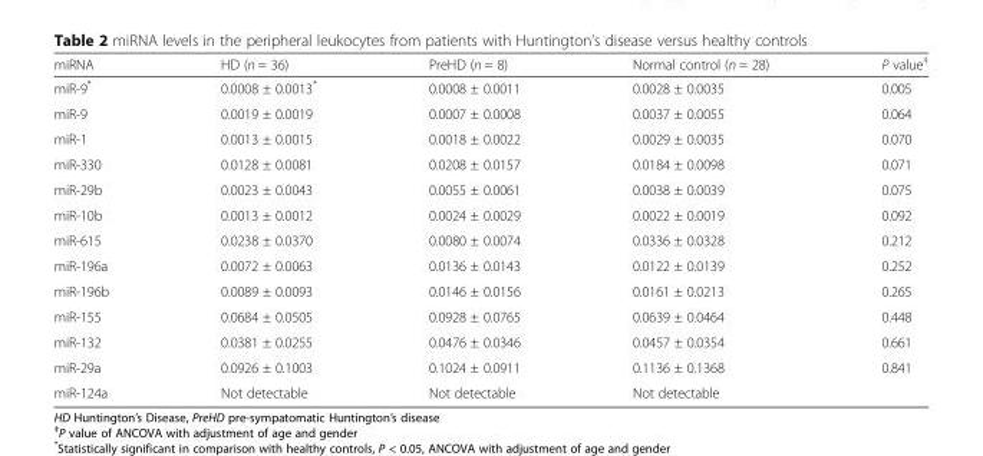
<table><thead><tr><td>miRNA</td><td>HD (n = 36)</td><td>PreHD (n = 8)</td><td>Normal control (n = 28)</td><td>P value<sup>‡</sup></td></tr></thead><tbody><tr><td>miR-9*</td><td>0.0008 ± 0.0013*</td><td>0.0008 ± 0.0011</td><td>0.0028 ± 0.0035</td><td>0.005</td></tr><tr><td>miR-9</td><td>0.0019 ± 0.0019</td><td>0.0007 ± 0.0008</td><td>0.0037 ± 0.0055</td><td>0.064</td></tr><tr><td>miR-1</td><td>0.0013 ± 0.0015</td><td>0.0018 ± 0.0022</td><td>0.0029 ± 0.0035</td><td>0.070</td></tr><tr><td>miR-330</td><td>0.0128 ± 0.0081</td><td>0.0208 ± 0.0157</td><td>0.0184 ± 0.0098</td><td>0.071</td></tr><tr><td>miR-29b</td><td>0.0023 ± 0.0043</td><td>0.0055 ± 0.0061</td><td>0.0038 ± 0.0039</td><td>0.075</td></tr><tr><td>miR-10b</td><td>0.0013 ± 0.0012</td><td>0.0024 ± 0.0029</td><td>0.0022 ± 0.0019</td><td>0.092</td></tr><tr><td>miR-615</td><td>0.0238 ± 0.0370</td><td>0.0080 ± 0.0074</td><td>0.0336 ± 0.0328</td><td>0.212</td></tr><tr><td>miR-196a</td><td>0.0072 ± 0.0063</td><td>0.0136 ± 0.0143</td><td>0.0122 ± 0.0139</td><td>0.252</td></tr><tr><td>miR-196b</td><td>0.0089 ± 0.0093</td><td>0.0146 ± 0.0156</td><td>0.0161 ± 0.0213</td><td>0.265</td></tr><tr><td>miR-155</td><td>0.0684 ± 0.0505</td><td>0.0928 ± 0.0765</td><td>0.0639 ± 0.0464</td><td>0.448</td></tr><tr><td>miR-132</td><td>0.0381 ± 0.0255</td><td>0.0476 ± 0.0346</td><td>0.0457 ± 0.0354</td><td>0.661</td></tr><tr><td>miR-29a</td><td>0.0926 ± 0.1003</td><td>0.1024 ± 0.0911</td><td>0.1136 ± 0.1368</td><td>0.841</td></tr><tr><td>miR-124a</td><td>Not detectable</td><td>Not detectable</td><td>Not detectable</td><td></td></tr></tbody></table>